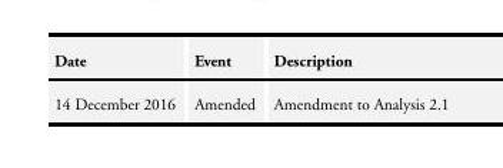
<table><thead><tr><td>Date</td><td>Event</td><td>Description</td></tr></thead><tbody><tr><td>14 December 2016</td><td>Amended</td><td>Amendment to Analysis 2.1</td></tr></tbody></table>